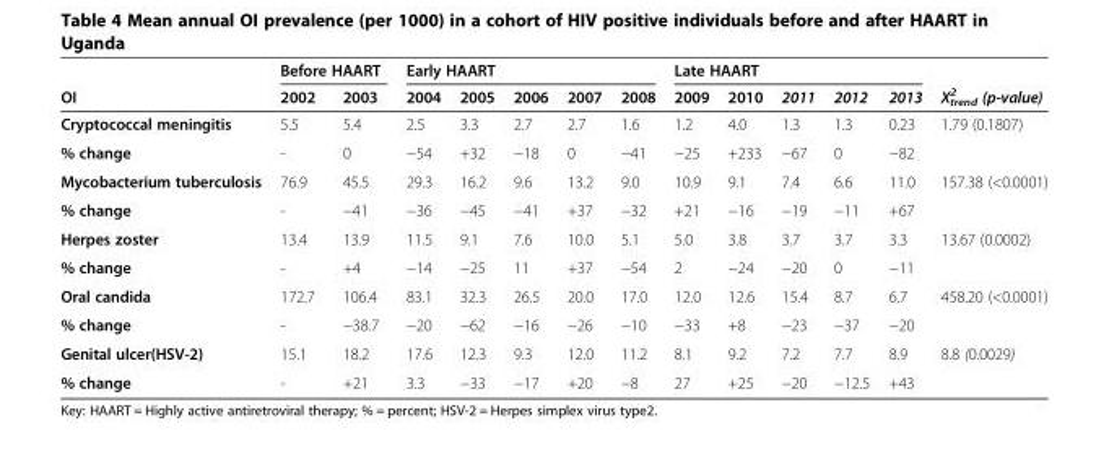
<table><thead><tr><td rowspan="2">OI</td><td colspan="2">Before HAART</td><td colspan="5">Early HAART</td><td colspan="5">Late HAART</td><td rowspan="2">X<sup>2</sup> <sub>trend</sub> (p-value)</td></tr><tr><td>2002</td><td>2003</td><td>2004</td><td>2005</td><td>2006</td><td>2007</td><td>2008</td><td>2009</td><td>2010</td><td>2011</td><td>2012</td><td>2013</td></tr></thead><tbody><tr><td>Cryptococcal meningitis</td><td>5.5</td><td>5.4</td><td>2.5</td><td>3.3</td><td>2.7</td><td>2.7</td><td>1.6</td><td>1.2</td><td>4.0</td><td>1.3</td><td>1.3</td><td>0.23</td><td>1.79 (0.1807)</td></tr><tr><td>% change</td><td>-</td><td>0</td><td>−54</td><td>+32</td><td>−18</td><td>0</td><td>−41</td><td>−25</td><td>+233</td><td>−67</td><td>0</td><td>−82</td><td></td></tr><tr><td>Mycobacterium tuberculosis</td><td>76.9</td><td>45.5</td><td>29.3</td><td>16.2</td><td>9.6</td><td>13.2</td><td>9.0</td><td>10.9</td><td>9.1</td><td>7.4</td><td>6.6</td><td>11.0</td><td>157.38 (&lt;0.0001)</td></tr><tr><td>% change</td><td>-</td><td>−41</td><td>−36</td><td>−45</td><td>−41</td><td>+37</td><td>−32</td><td>+21</td><td>−16</td><td>−19</td><td>−11</td><td>+67</td><td></td></tr><tr><td>Herpes zoster</td><td>13.4</td><td>13.9</td><td>11.5</td><td>9.1</td><td>7.6</td><td>10.0</td><td>5.1</td><td>5.0</td><td>3.8</td><td>3.7</td><td>3.7</td><td>3.3</td><td>13.67 (0.0002)</td></tr><tr><td>% change</td><td>-</td><td>+4</td><td>−14</td><td>−25</td><td>11</td><td>+37</td><td>−54</td><td>2</td><td>−24</td><td>−20</td><td>0</td><td>−11</td><td></td></tr><tr><td>Oral candida</td><td>172.7</td><td>106.4</td><td>83.1</td><td>32.3</td><td>26.5</td><td>20.0</td><td>17.0</td><td>12.0</td><td>12.6</td><td>15.4</td><td>8.7</td><td>6.7</td><td>458.20 (&lt;0.0001)</td></tr><tr><td>% change</td><td>-</td><td>−38.7</td><td>−20</td><td>−62</td><td>−16</td><td>−26</td><td>−10</td><td>−33</td><td>+8</td><td>−23</td><td>−37</td><td>−20</td><td></td></tr><tr><td>Genital ulcer(HSV-2)</td><td>15.1</td><td>18.2</td><td>17.6</td><td>12.3</td><td>9.3</td><td>12.0</td><td>11.2</td><td>8.1</td><td>9.2</td><td>7.2</td><td>7.7</td><td>8.9</td><td>8.8 (0.0029)</td></tr><tr><td>% change</td><td>-</td><td>+21</td><td>3.3</td><td>−33</td><td>−17</td><td>+20</td><td>−8</td><td>27</td><td>+25</td><td>−20</td><td>−12.5</td><td>+43</td><td></td></tr></tbody></table>